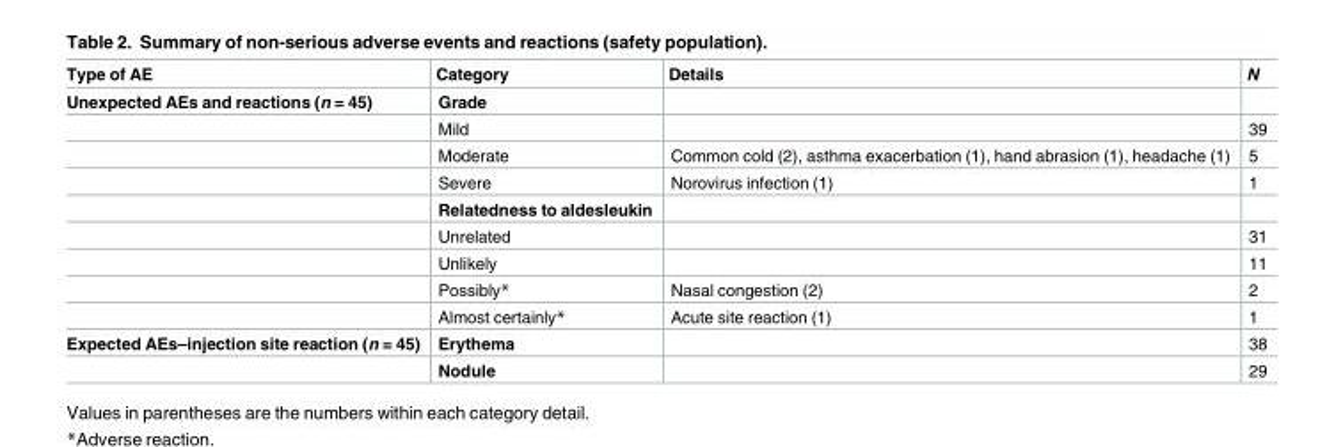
<table><thead><tr><td>Type of AE</td><td>Category</td><td>Details</td><td>N</td></tr></thead><tbody><tr><td rowspan="9">Unexpected AEs and reactions (n = 45)</td><td>Grade</td><td></td><td></td></tr><tr><td>Mild</td><td></td><td>39</td></tr><tr><td>Moderate</td><td>Common cold (2), asthma exacerbation (1), hand abrasion (1), headache (1)</td><td>5</td></tr><tr><td>Severe</td><td>Norovirus infection (1)</td><td>1</td></tr><tr><td>Relatedness to aldesleukin</td><td></td><td></td></tr><tr><td>Unrelated</td><td></td><td>31</td></tr><tr><td>Unlikely</td><td></td><td>11</td></tr><tr><td>Possibly*</td><td>Nasal congestion (2)</td><td>2</td></tr><tr><td>Almost certainly*</td><td>Acute site reaction (1)</td><td>1</td></tr><tr><td rowspan="2">Expected AEs–injection site reaction (n = 45)</td><td>Erythema</td><td></td><td>38</td></tr><tr><td>Nodule</td><td></td><td>29</td></tr></tbody></table>